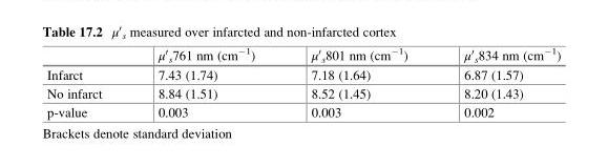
<table><thead><tr><td></td><td>μ′<sub>s</sub>761 nm (cm<sup>−1</sup>)</td><td>μ′<sub>s</sub>801 nm (cm<sup>−1</sup>)</td><td>μ′<sub>s</sub>834 nm (cm<sup>−1</sup>)</td></tr></thead><tbody><tr><td>Infarct</td><td>7.43 (1.74)</td><td>7.18 (1.64)</td><td>6.87 (1.57)</td></tr><tr><td>No infarct</td><td>8.84 (1.51)</td><td>8.52 (1.45)</td><td>8.20 (1.43)</td></tr><tr><td>p-value</td><td>0.003</td><td>0.003</td><td>0.002</td></tr></tbody></table>